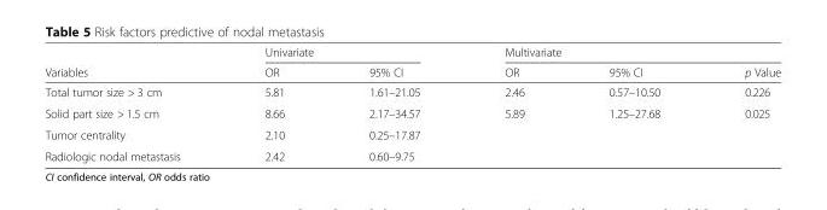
<table><thead><tr><td rowspan="2">Variables</td><td colspan="2">Univariate</td><td colspan="3">Multivariate</td></tr><tr><td>OR</td><td>95% CI</td><td>OR</td><td>95% CI</td><td>p Value</td></tr></thead><tbody><tr><td>Total tumor size &gt; 3 cm</td><td>5.81</td><td>1.61–21.05</td><td>2.46</td><td>0.57–10.50</td><td>0.226</td></tr><tr><td>Solid part size &gt; 1.5 cm</td><td>8.66</td><td>2.17–34.57</td><td>5.89</td><td>1.25–27.68</td><td>0.025</td></tr><tr><td>Tumor centrality</td><td>2.10</td><td>0.25–17.87</td><td></td><td></td><td></td></tr><tr><td>Radiologic nodal metastasis</td><td>2.42</td><td>0.60–9.75</td><td></td><td></td><td></td></tr></tbody></table>